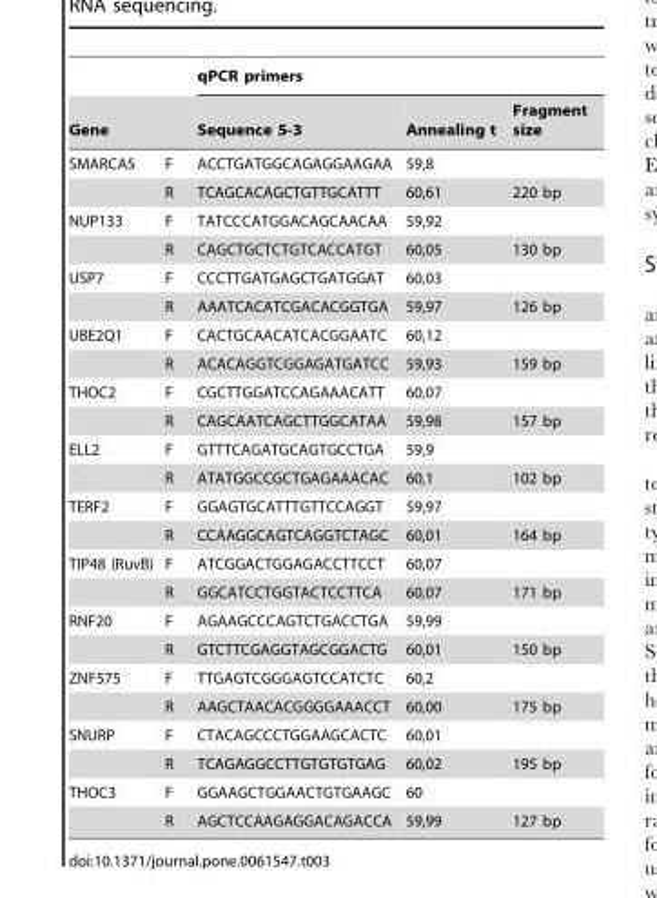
<table><thead><tr><td rowspan="2">Gene</td><td rowspan="2"></td><td colspan="3">qPCR primers</td></tr><tr><td>Sequence 5-3</td><td>Annealing t</td><td>Fragment size</td></tr></thead><tbody><tr><td rowspan="2">SMARCA5</td><td>F</td><td>ACCTGATGGCAGAGGAAGAA</td><td>59,8</td><td></td></tr><tr><td>R</td><td>TCAGCACAGCTGTTGCATTT</td><td>60,61</td><td>220 bp</td></tr><tr><td rowspan="2">NUP133</td><td>F</td><td>TATCCCATGGACAGCAACAA</td><td>59,92</td><td></td></tr><tr><td>R</td><td>CAGCTGCTCTGTCACCATGT</td><td>60,05</td><td>130 bp</td></tr><tr><td rowspan="2">USP7</td><td>F</td><td>CCCTTGATGAGCTGATGGAT</td><td>60,03</td><td></td></tr><tr><td>R</td><td>AAATCACATCGACACGGTGA</td><td>59,97</td><td>126 bp</td></tr><tr><td rowspan="2">UBE2Q1</td><td>F</td><td>CACTGCAACATCACGGAATC</td><td>60,12</td><td></td></tr><tr><td>R</td><td>ACACAGGTCGGAGATGATCC</td><td>59,93</td><td>159 bp</td></tr><tr><td rowspan="2">THOC2</td><td>F</td><td>CGCTTGGATCCAGAAACATT</td><td>60,07</td><td></td></tr><tr><td>R</td><td>CAGCAATCAGCTTGGCATAA</td><td>59,98</td><td>157 bp</td></tr><tr><td rowspan="2">ELL2</td><td>F</td><td>GTTTCAGATGCAGTGCCTGA</td><td>59,9</td><td></td></tr><tr><td>R</td><td>ATATGGCCGCTGAGAAACAC</td><td>60,1</td><td>102 bp</td></tr><tr><td rowspan="2">TERF2</td><td>F</td><td>GGAGTGCATTTGTTCCAGGT</td><td>59,97</td><td></td></tr><tr><td>R</td><td>CCAAGGCAGTCAGGTCTAGC</td><td>60,01</td><td>164 bp</td></tr><tr><td rowspan="2">TIP48 (RuvB)</td><td>F</td><td>ATCGGACTGGAGACCTTCCT</td><td>60,07</td><td></td></tr><tr><td>R</td><td>GGCATCCTGGTACTCCTTCA</td><td>60,07</td><td>171 bp</td></tr><tr><td rowspan="2">RNF20</td><td>F</td><td>AGAAGCCCAGTCTGACCTGA</td><td>59,99</td><td></td></tr><tr><td>R</td><td>GTCTTCGAGGTAGCGGACTG</td><td>60,01</td><td>150 bp</td></tr><tr><td rowspan="2">ZNF575</td><td>F</td><td>TTGAGTCGGGAGTCCATCTC</td><td>60,2</td><td></td></tr><tr><td>R</td><td>AAGCTAACACGGGGAAACCT</td><td>60,00</td><td>175 bp</td></tr><tr><td rowspan="2">SNURP</td><td>F</td><td>CTACAGCCCTGGAAGCACTC</td><td>60,01</td><td></td></tr><tr><td>R</td><td>TCAGAGGCCTTGTGTGTGAG</td><td>60,02</td><td>195 bp</td></tr><tr><td rowspan="2">THOC3</td><td>F</td><td>GGAAGCTGGAACTGTGAAGC</td><td>60</td><td></td></tr><tr><td>R</td><td>AGCTCCAAGAGGACAGACCA</td><td>59,99</td><td>127 bp</td></tr></tbody></table>